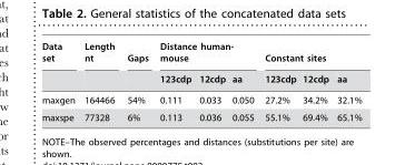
<table><thead><tr><td rowspan="2">Data set</td><td rowspan="2">Length nt</td><td rowspan="2">Gaps</td><td colspan="3">Distance human- mouse</td><td colspan="3">Constant sites</td></tr><tr><td>123cdp</td><td>12cdp</td><td>aa</td><td>123cdp</td><td>12cdp</td><td>aa</td></tr></thead><tbody><tr><td>maxgen</td><td>164466</td><td>54%</td><td>0.111</td><td>0.033</td><td>0.050</td><td>27.2%</td><td>34.2%</td><td>32.1%</td></tr><tr><td>maxspe</td><td>77328</td><td>6%</td><td>0.113</td><td>0.036</td><td>0.055</td><td>55.1%</td><td>69.4%</td><td>65.1%</td></tr></tbody></table>